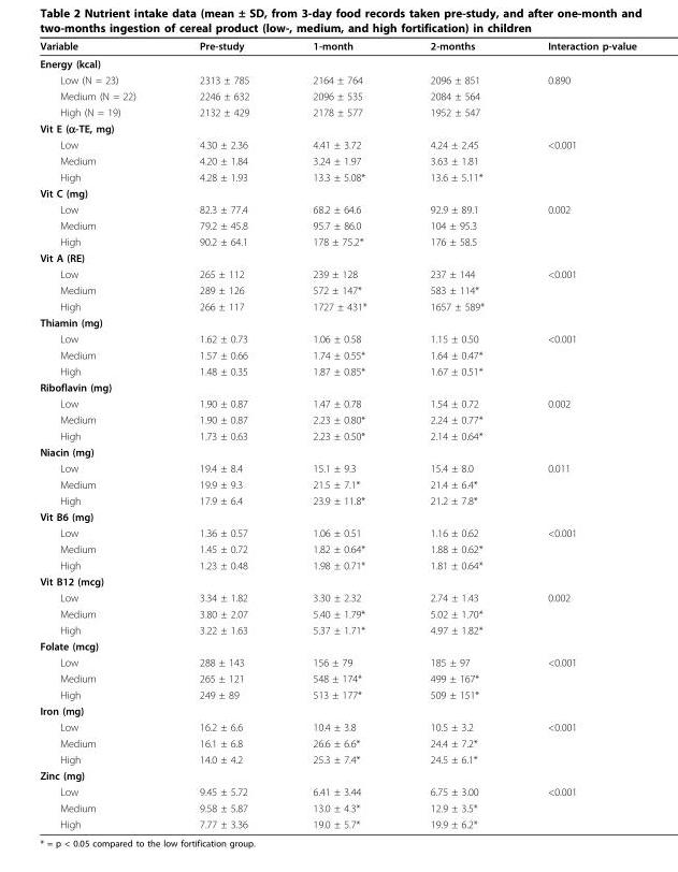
<table><thead><tr><td>Variable</td><td>Pre-study</td><td>1-month</td><td>2-months</td><td>Interaction p-value</td></tr></thead><tbody><tr><td colspan="5">Energy (kcal)</td></tr><tr><td>Low (N = 23)</td><td>2313 ± 785</td><td>2164 ± 764</td><td>2096 ± 851</td><td>0.890</td></tr><tr><td>Medium (N = 22)</td><td>2246 ± 632</td><td>2096 ± 535</td><td>2084 ± 564</td><td></td></tr><tr><td>High (N = 19)</td><td>2132 ± 429</td><td>2178 ± 577</td><td>1952 ± 547</td><td></td></tr><tr><td colspan="5">Vit E (α-TE, mg)</td></tr><tr><td>Low</td><td>4.30 ± 2.36</td><td>4.41 ± 3.72</td><td>4.24 ± 2.45</td><td>&lt;0.001</td></tr><tr><td>Medium</td><td>4.20 ± 1.84</td><td>3.24 ± 1.97</td><td>3.63 ± 1.81</td><td></td></tr><tr><td>High</td><td>4.28 ± 1.93</td><td>13.3 ± 5.08*</td><td>13.6 ± 5.11*</td><td></td></tr><tr><td colspan="5">Vit C (mg)</td></tr><tr><td>Low</td><td>82.3 ± 77.4</td><td>68.2 ± 64.6</td><td>92.9 ± 89.1</td><td>0.002</td></tr><tr><td>Medium</td><td>79.2 ± 45.8</td><td>95.7 ± 86.0</td><td>104 ± 95.3</td><td></td></tr><tr><td>High</td><td>90.2 ± 64.1</td><td>178 ± 75.2*</td><td>176 ± 58.5</td><td></td></tr><tr><td colspan="5">Vit A (RE)</td></tr><tr><td>Low</td><td>265 ± 112</td><td>239 ± 128</td><td>237 ± 144</td><td>&lt;0.001</td></tr><tr><td>Medium</td><td>289 ± 126</td><td>572 ± 147*</td><td>583 ± 114*</td><td></td></tr><tr><td>High</td><td>266 ± 117</td><td>1727 ± 431*</td><td>1657 ± 589*</td><td></td></tr><tr><td colspan="5">Thiamin (mg)</td></tr><tr><td>Low</td><td>1.62 ± 0.73</td><td>1.06 ± 0.58</td><td>1.15 ± 0.50</td><td>&lt;0.001</td></tr><tr><td>Medium</td><td>1.57 ± 0.66</td><td>1.74 ± 0.55*</td><td>1.64 ± 0.47*</td><td></td></tr><tr><td>High</td><td>1.48 ± 0.35</td><td>1.87 ± 0.85*</td><td>1.67 ± 0.51*</td><td></td></tr><tr><td colspan="5">Riboflavin (mg)</td></tr><tr><td>Low</td><td>1.90 ± 0.87</td><td>1.47 ± 0.78</td><td>1.54 ± 0.72</td><td>0.002</td></tr><tr><td>Medium</td><td>1.90 ± 0.87</td><td>2.23 ± 0.80*</td><td>2.24 ± 0.77*</td><td></td></tr><tr><td>High</td><td>1.73 ± 0.63</td><td>2.23 ± 0.50*</td><td>2.14 ± 0.64*</td><td></td></tr><tr><td colspan="5">Niacin (mg)</td></tr><tr><td>Low</td><td>19.4 ± 8.4</td><td>15.1 ± 9.3</td><td>15.4 ± 8.0</td><td>0.011</td></tr><tr><td>Medium</td><td>19.9 ± 9.3</td><td>21.5 ± 7.1*</td><td>21.4 ± 6.4*</td><td></td></tr><tr><td>High</td><td>17.9 ± 6.4</td><td>23.9 ± 11.8*</td><td>21.2 ± 7.8*</td><td></td></tr><tr><td colspan="5">Vit B6 (mg)</td></tr><tr><td>Low</td><td>1.36 ± 0.57</td><td>1.06 ± 0.51</td><td>1.16 ± 0.62</td><td>&lt;0.001</td></tr><tr><td>Medium</td><td>1.45 ± 0.72</td><td>1.82 ± 0.64*</td><td>1.88 ± 0.62*</td><td></td></tr><tr><td>High</td><td>1.23 ± 0.48</td><td>1.98 ± 0.71*</td><td>1.81 ± 0.64*</td><td></td></tr><tr><td colspan="5">Vit B12 (mcg)</td></tr><tr><td>Low</td><td>3.34 ± 1.82</td><td>3.30 ± 2.32</td><td>2.74 ± 1.43</td><td>0.002</td></tr><tr><td>Medium</td><td>3.80 ± 2.07</td><td>5.40 ± 1.79*</td><td>5.02 ± 1.70*</td><td></td></tr><tr><td>High</td><td>3.22 ± 1.63</td><td>5.37 ± 1.71*</td><td>4.97 ± 1.82*</td><td></td></tr><tr><td colspan="5">Folate (mcg)</td></tr><tr><td>Low</td><td>288 ± 143</td><td>156 ± 79</td><td>185 ± 97</td><td>&lt;0.001</td></tr><tr><td>Medium</td><td>265 ± 121</td><td>548 ± 174*</td><td>499 ± 167*</td><td></td></tr><tr><td>High</td><td>249 ± 89</td><td>513 ± 177*</td><td>509 ± 151*</td><td></td></tr><tr><td colspan="5">Iron (mg)</td></tr><tr><td>Low</td><td>16.2 ± 6.6</td><td>10.4 ± 3.8</td><td>10.5 ± 3.2</td><td>&lt;0.001</td></tr><tr><td>Medium</td><td>16.1 ± 6.8</td><td>26.6 ± 6.6*</td><td>24.4 ± 7.2*</td><td></td></tr><tr><td>High</td><td>14.0 ± 4.2</td><td>25.3 ± 7.4*</td><td>24.5 ± 6.1*</td><td></td></tr><tr><td colspan="5">Zinc (mg)</td></tr><tr><td>Low</td><td>9.45 ± 5.72</td><td>6.41 ± 3.44</td><td>6.75 ± 3.00</td><td>&lt;0.001</td></tr><tr><td>Medium</td><td>9.58 ± 5.87</td><td>13.0 ± 4.3*</td><td>12.9 ± 3.5*</td><td></td></tr><tr><td>High</td><td>7.77 ± 3.36</td><td>19.0 ± 5.7*</td><td>19.9 ± 6.2*</td><td></td></tr></tbody></table>